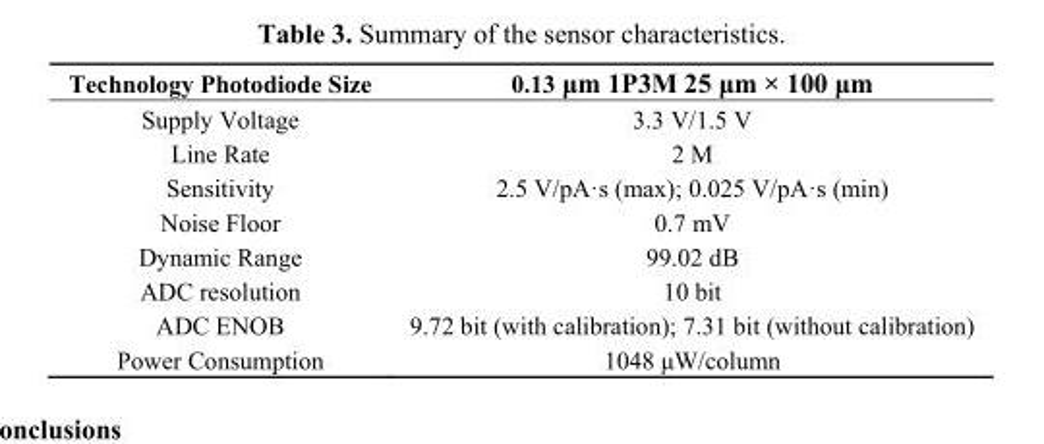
<table><thead><tr><td>Technology Photodiode Size</td><td>0.13 μm 1P3M 25 μm × 100 μm</td></tr></thead><tbody><tr><td>Supply Voltage</td><td>3.3 V/1.5 V</td></tr><tr><td>Line Rate</td><td>2 M</td></tr><tr><td>Sensitivity</td><td>2.5 V/pA·s (max); 0.025 V/pA·s (min)</td></tr><tr><td>Noise Floor</td><td>0.7 mV</td></tr><tr><td>Dynamic Range</td><td>99.02 dB</td></tr><tr><td>ADC resolution</td><td>10 bit</td></tr><tr><td>ADC ENOB</td><td>9.72 bit (with calibration); 7.31 bit (without calibration)</td></tr><tr><td>Power Consumption</td><td>1048 μW/column</td></tr></tbody></table>